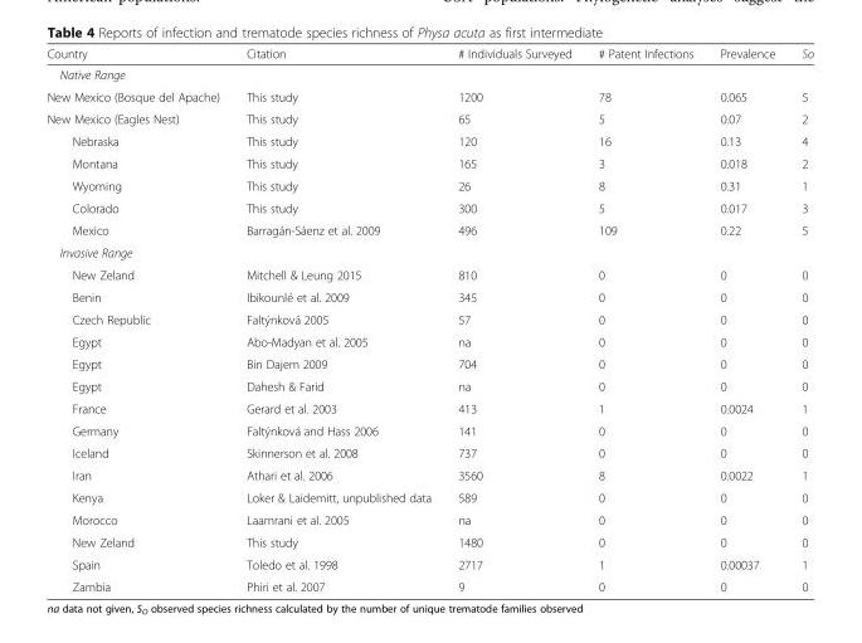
<table><thead><tr><td>Country</td><td>Citation</td><td># Individuals Surveyed</td><td># Patent Infections</td><td>Prevalence</td><td>So</td></tr></thead><tbody><tr><td colspan="6">Native Range</td></tr><tr><td>New Mexico (Bosque del Apache)</td><td>This study</td><td>1200</td><td>78</td><td>0.065</td><td>5</td></tr><tr><td>New Mexico (Eagles Nest)</td><td>This study</td><td>65</td><td>5</td><td>0.07</td><td>2</td></tr><tr><td>Nebraska</td><td>This study</td><td>120</td><td>16</td><td>0.13</td><td>4</td></tr><tr><td>Montana</td><td>This study</td><td>165</td><td>3</td><td>0.018</td><td>2</td></tr><tr><td>Wyoming</td><td>This study</td><td>26</td><td>8</td><td>0.31</td><td>1</td></tr><tr><td>Colorado</td><td>This study</td><td>300</td><td>5</td><td>0.017</td><td>3</td></tr><tr><td>Mexico</td><td>Barragán-Sáenz et al. 2009</td><td>496</td><td>109</td><td>0.22</td><td>5</td></tr><tr><td colspan="6">Invasive Range</td></tr><tr><td>New Zeland</td><td>Mitchell &amp; Leung 2015</td><td>810</td><td>0</td><td>0</td><td>0</td></tr><tr><td>Benin</td><td>Ibikounlé et al. 2009</td><td>345</td><td>0</td><td>0</td><td>0</td></tr><tr><td>Czech Republic</td><td>Faltýnková 2005</td><td>57</td><td>0</td><td>0</td><td>0</td></tr><tr><td>Egypt</td><td>Abo-Madyan et al. 2005</td><td>na</td><td>0</td><td>0</td><td>0</td></tr><tr><td>Egypt</td><td>Bin Dajem 2009</td><td>704</td><td>0</td><td>0</td><td>0</td></tr><tr><td>Egypt</td><td>Dahesh &amp; Farid</td><td>na</td><td>0</td><td>0</td><td>0</td></tr><tr><td>France</td><td>Gerard et al. 2003</td><td>413</td><td>1</td><td>0.0024</td><td>1</td></tr><tr><td>Germany</td><td>Faltýnková and Hass 2006</td><td>141</td><td>0</td><td>0</td><td>0</td></tr><tr><td>Iceland</td><td>Skinnerson et al. 2008</td><td>737</td><td>0</td><td>0</td><td>0</td></tr><tr><td>Iran</td><td>Athari et al. 2006</td><td>3560</td><td>8</td><td>0.0022</td><td>1</td></tr><tr><td>Kenya</td><td>Loker &amp; Laidemitt, unpublished data</td><td>589</td><td>0</td><td>0</td><td>0</td></tr><tr><td>Morocco</td><td>Laamrani et al. 2005</td><td>na</td><td>0</td><td>0</td><td>0</td></tr><tr><td>New Zeland</td><td>This study</td><td>1480</td><td>0</td><td>0</td><td>0</td></tr><tr><td>Spain</td><td>Toledo et al. 1998</td><td>2717</td><td>1</td><td>0.00037</td><td>1</td></tr><tr><td>Zambia</td><td>Phiri et al. 2007</td><td>9</td><td>0</td><td>0</td><td>0</td></tr></tbody></table>